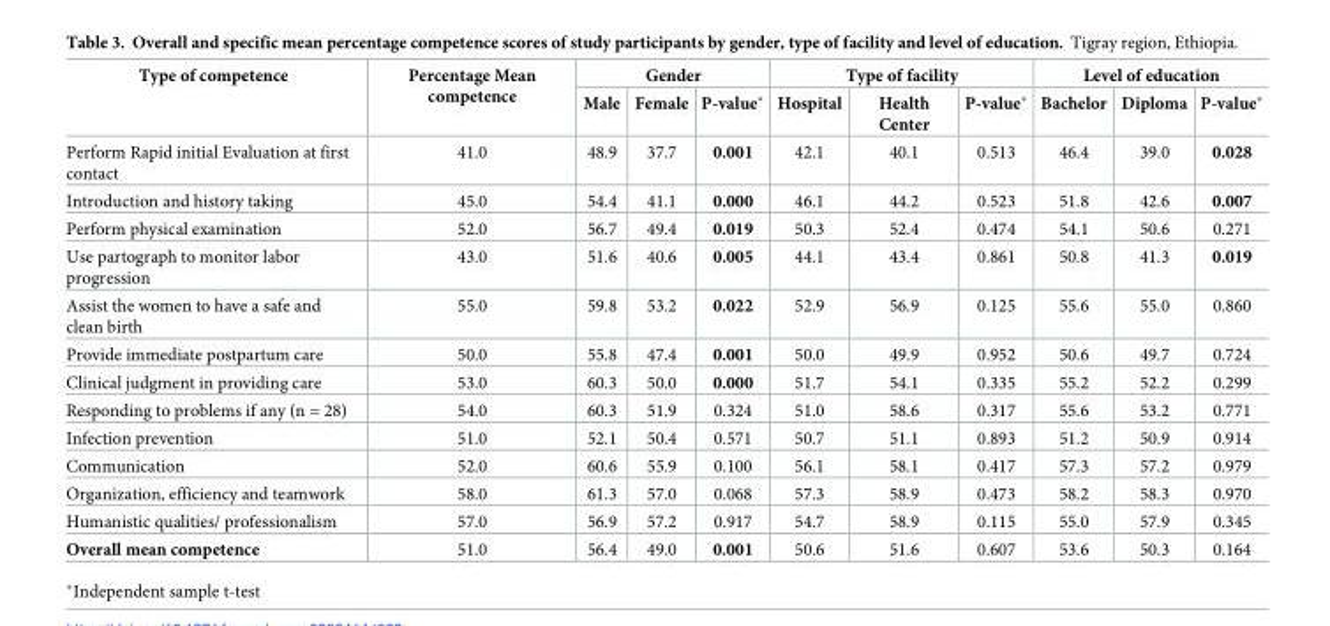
<table><thead><tr><td rowspan="2">Type of competence</td><td rowspan="2">Percentage Mean competence</td><td colspan="3">Gender</td><td colspan="3">Type of facility</td><td colspan="3">Level of education</td></tr><tr><td>Male</td><td>Female</td><td>P-value*</td><td>Hospital</td><td>Health Center</td><td>P-value*</td><td>Bachelor</td><td>Diploma</td><td>P-value*</td></tr></thead><tbody><tr><td>Perform Rapid initial Evaluation at first contact</td><td>41.0</td><td>48.9</td><td>37.7</td><td>0.001</td><td>42.1</td><td>40.1</td><td>0.513</td><td>46.4</td><td>39.0</td><td>0.028</td></tr><tr><td>Introduction and history taking</td><td>45.0</td><td>54.4</td><td>41.1</td><td>0.000</td><td>46.1</td><td>44.2</td><td>0.523</td><td>51.8</td><td>42.6</td><td>0.007</td></tr><tr><td>Perform physical examination</td><td>52.0</td><td>56.7</td><td>49.4</td><td>0.019</td><td>50.3</td><td>52.4</td><td>0.474</td><td>54.1</td><td>50.6</td><td>0.271</td></tr><tr><td>Use partograph to monitor labor progression</td><td>43.0</td><td>51.6</td><td>40.6</td><td>0.005</td><td>44.1</td><td>43.4</td><td>0.861</td><td>50.8</td><td>41.3</td><td>0.019</td></tr><tr><td>Assist the women to have a safe and clean birth</td><td>55.0</td><td>59.8</td><td>53.2</td><td>0.022</td><td>52.9</td><td>56.9</td><td>0.125</td><td>55.6</td><td>55.0</td><td>0.860</td></tr><tr><td>Provide immediate postpartum care</td><td>50.0</td><td>55.8</td><td>47.4</td><td>0.001</td><td>50.0</td><td>49.9</td><td>0.952</td><td>50.6</td><td>49.7</td><td>0.724</td></tr><tr><td>Clinical judgment in providing care</td><td>53.0</td><td>60.3</td><td>50.0</td><td>0.000</td><td>51.7</td><td>54.1</td><td>0.335</td><td>55.2</td><td>52.2</td><td>0.299</td></tr><tr><td>Responding to problems if any (n = 28)</td><td>54.0</td><td>60.3</td><td>51.9</td><td>0.324</td><td>51.0</td><td>58.6</td><td>0.317</td><td>55.6</td><td>53.2</td><td>0.771</td></tr><tr><td>Infection prevention</td><td>51.0</td><td>52.1</td><td>50.4</td><td>0.571</td><td>50.7</td><td>51.1</td><td>0.893</td><td>51.2</td><td>50.9</td><td>0.914</td></tr><tr><td>Communication</td><td>52.0</td><td>60.6</td><td>55.9</td><td>0.100</td><td>56.1</td><td>58.1</td><td>0.417</td><td>57.3</td><td>57.2</td><td>0.979</td></tr><tr><td>Organization, efficiency and teamwork</td><td>58.0</td><td>61.3</td><td>57.0</td><td>0.068</td><td>57.3</td><td>58.9</td><td>0.473</td><td>58.2</td><td>58.3</td><td>0.970</td></tr><tr><td>Humanistic qualities/ professionalism</td><td>57.0</td><td>56.9</td><td>57.2</td><td>0.917</td><td>54.7</td><td>58.9</td><td>0.115</td><td>55.0</td><td>57.9</td><td>0.345</td></tr><tr><td>Overall mean competence</td><td>51.0</td><td>56.4</td><td>49.0</td><td>0.001</td><td>50.6</td><td>51.6</td><td>0.607</td><td>53.6</td><td>50.3</td><td>0.164</td></tr></tbody></table>